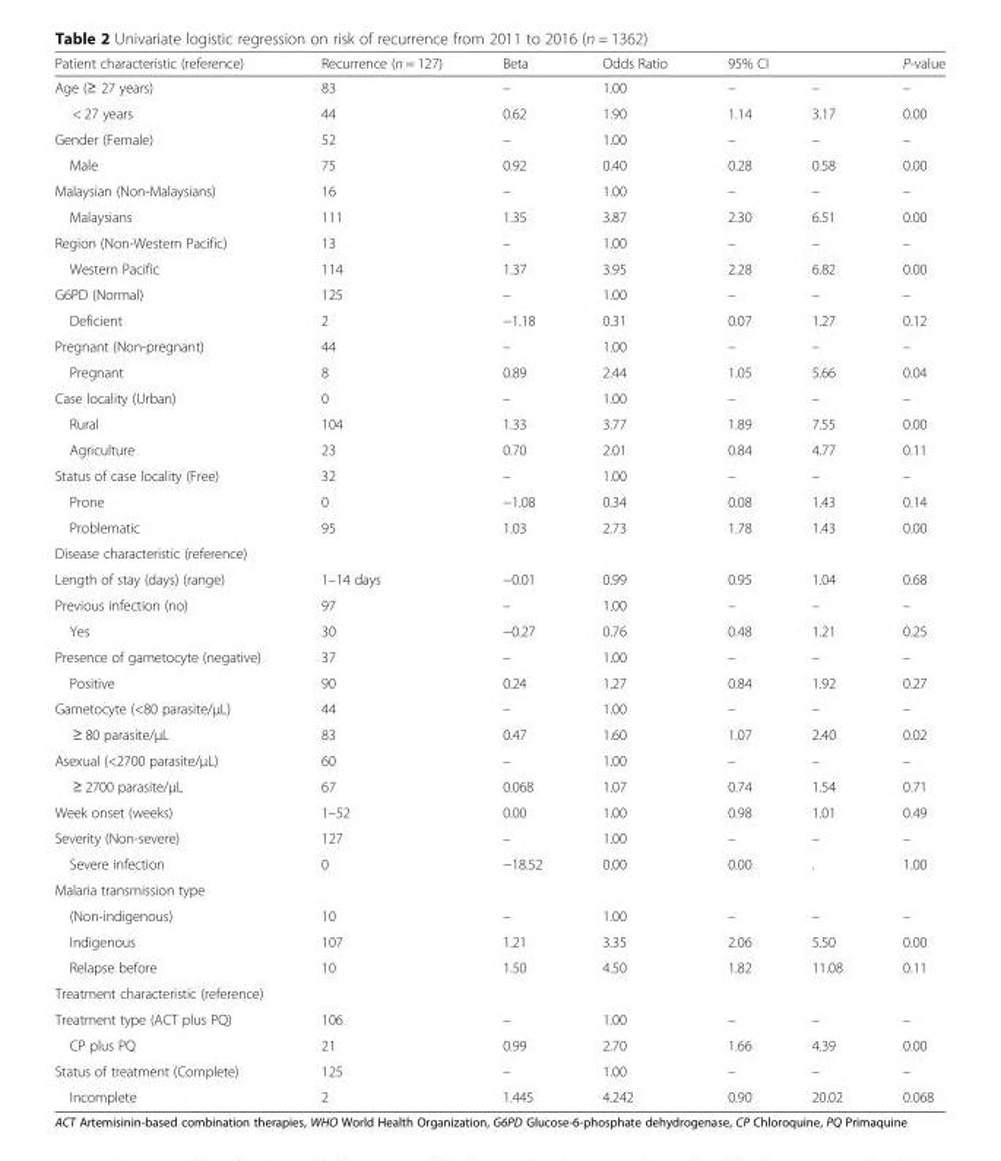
<table><thead><tr><td rowspan="2">Patient characteristic (reference) Age (≥ 27 years)</td><td rowspan="2">Recurrence (n = 127) 83</td><td rowspan="2">Beta –</td><td rowspan="2">Odds Ratio 1.00</td><td colspan="2">95% CI</td><td rowspan="2">P-value –</td></tr><tr><td>–</td><td>–</td></tr></thead><tbody><tr><td>&lt; 27 years</td><td>44</td><td>0.62</td><td>1.90</td><td>1.14</td><td>3.17</td><td>0.00</td></tr><tr><td>Gender (Female)</td><td>52</td><td>–</td><td>1.00</td><td>–</td><td>–</td><td>–</td></tr><tr><td>Male</td><td>75</td><td>0.92</td><td>0.40</td><td>0.28</td><td>0.58</td><td>0.00</td></tr><tr><td>Malaysian (Non-Malaysians)</td><td>16</td><td>–</td><td>1.00</td><td>–</td><td>–</td><td>–</td></tr><tr><td>Malaysians</td><td>111</td><td>1.35</td><td>3.87</td><td>2.30</td><td>6.51</td><td>0.00</td></tr><tr><td>Region (Non-Western Pacific)</td><td>13</td><td>–</td><td>1.00</td><td>–</td><td>–</td><td>–</td></tr><tr><td>Western Pacific</td><td>114</td><td>1.37</td><td>3.95</td><td>2.28</td><td>6.82</td><td>0.00</td></tr><tr><td>G6PD (Normal)</td><td>125</td><td>–</td><td>1.00</td><td>–</td><td>–</td><td>–</td></tr><tr><td>Deficient</td><td>2</td><td>−1.18</td><td>0.31</td><td>0.07</td><td>1.27</td><td>0.12</td></tr><tr><td>Pregnant (Non-pregnant)</td><td>44</td><td>–</td><td>1.00</td><td>–</td><td>–</td><td>–</td></tr><tr><td>Pregnant</td><td>8</td><td>0.89</td><td>2.44</td><td>1.05</td><td>5.66</td><td>0.04</td></tr><tr><td>Case locality (Urban)</td><td>0</td><td>–</td><td>1.00</td><td>–</td><td>–</td><td>–</td></tr><tr><td>Rural</td><td>104</td><td>1.33</td><td>3.77</td><td>1.89</td><td>7.55</td><td>0.00</td></tr><tr><td>Agriculture</td><td>23</td><td>0.70</td><td>2.01</td><td>0.84</td><td>4.77</td><td>0.11</td></tr><tr><td>Status of case locality (Free)</td><td>32</td><td>–</td><td>1.00</td><td>–</td><td>–</td><td>–</td></tr><tr><td>Prone</td><td>0</td><td>−1.08</td><td>0.34</td><td>0.08</td><td>1.43</td><td>0.14</td></tr><tr><td>Problematic</td><td>95</td><td>1.03</td><td>2.73</td><td>1.78</td><td>1.43</td><td>0.00</td></tr><tr><td colspan="7">Disease characteristic (reference)</td></tr><tr><td>Length of stay (days) (range)</td><td>1–14 days</td><td>−0.01</td><td>0.99</td><td>0.95</td><td>1.04</td><td>0.68</td></tr><tr><td>Previous infection (no)</td><td>97</td><td>–</td><td>1.00</td><td>–</td><td>–</td><td>–</td></tr><tr><td>Yes</td><td>30</td><td>−0.27</td><td>0.76</td><td>0.48</td><td>1.21</td><td>0.25</td></tr><tr><td>Presence of gametocyte (negative)</td><td>37</td><td>–</td><td>1.00</td><td>–</td><td>–</td><td>–</td></tr><tr><td>Positive</td><td>90</td><td>0.24</td><td>1.27</td><td>0.84</td><td>1.92</td><td>0.27</td></tr><tr><td>Gametocyte (&lt;80 parasite/μL)</td><td>44</td><td>–</td><td>1.00</td><td>–</td><td>–</td><td>–</td></tr><tr><td>≥ 80 parasite/μL</td><td>83</td><td>0.47</td><td>1.60</td><td>1.07</td><td>2.40</td><td>0.02</td></tr><tr><td>Asexual (&lt;2700 parasite/μL)</td><td>60</td><td>–</td><td>1.00</td><td>–</td><td>–</td><td>–</td></tr><tr><td>≥ 2700 parasite/μL</td><td>67</td><td>0.068</td><td>1.07</td><td>0.74</td><td>1.54</td><td>0.71</td></tr><tr><td>Week onset (weeks)</td><td>1–52</td><td>0.00</td><td>1.00</td><td>0.98</td><td>1.01</td><td>0.49</td></tr><tr><td>Severity (Non-severe)</td><td>127</td><td>–</td><td>1.00</td><td>–</td><td>–</td><td>–</td></tr><tr><td>Severe infection</td><td>0</td><td>−18.52</td><td>0.00</td><td>0.00</td><td>.</td><td>1.00</td></tr><tr><td colspan="7">Malaria transmission type</td></tr><tr><td>(Non-indigenous)</td><td>10</td><td>–</td><td>1.00</td><td>–</td><td>–</td><td>–</td></tr><tr><td>Indigenous</td><td>107</td><td>1.21</td><td>3.35</td><td>2.06</td><td>5.50</td><td>0.00</td></tr><tr><td>Relapse before</td><td>10</td><td>1.50</td><td>4.50</td><td>1.82</td><td>11.08</td><td>0.11</td></tr><tr><td colspan="7">Treatment characteristic (reference)</td></tr><tr><td>Treatment type (ACT plus PQ)</td><td>106</td><td>–</td><td>1.00</td><td>–</td><td>–</td><td>–</td></tr><tr><td>CP plus PQ</td><td>21</td><td>0.99</td><td>2.70</td><td>1.66</td><td>4.39</td><td>0.00</td></tr><tr><td>Status of treatment (Complete)</td><td>125</td><td>–</td><td>1.00</td><td>–</td><td>–</td><td>–</td></tr><tr><td>Incomplete</td><td>2</td><td>1.445</td><td>4.242</td><td>0.90</td><td>20.02</td><td>0.068</td></tr></tbody></table>